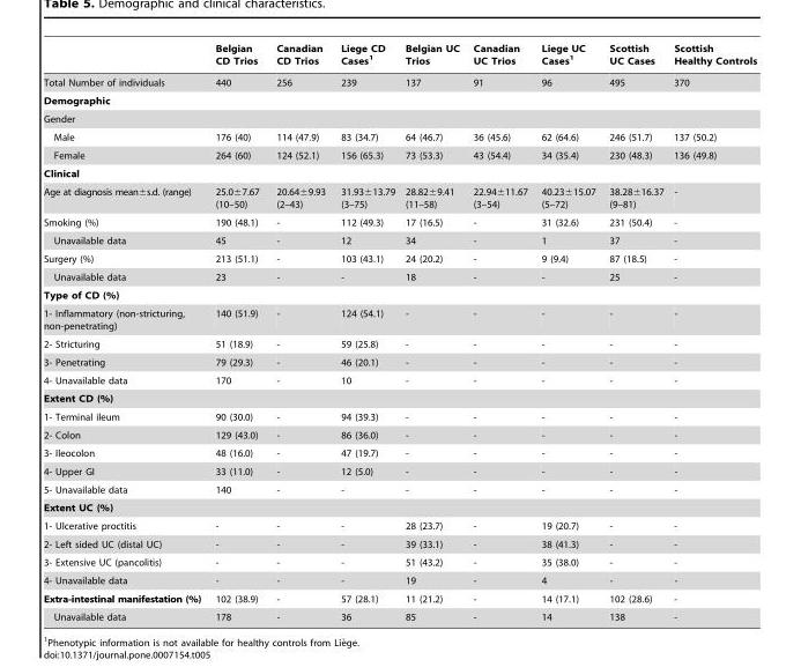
<table><thead><tr><td></td><td>Belgian CD Trios</td><td>Canadian CD Trios</td><td>Liege CD Cases<sup>1</sup></td><td>Belgian UC Trios</td><td>Canadian UC Trios</td><td>Liege UC Cases<sup>1</sup></td><td>Scottish UC Cases</td><td>Scottish Healthy Controls</td></tr></thead><tbody><tr><td>Total Number of individuals</td><td>440</td><td>256</td><td>239</td><td>137</td><td>91</td><td>96</td><td>495</td><td>370</td></tr><tr><td colspan="9">Demographic</td></tr><tr><td colspan="9">Gender</td></tr><tr><td>Male</td><td>176 (40)</td><td>114 (47.9)</td><td>83 (34.7)</td><td>64 (46.7)</td><td>36 (45.6)</td><td>62 (64.6)</td><td>246 (51.7)</td><td>137 (50.2)</td></tr><tr><td>Female</td><td>264 (60)</td><td>124 (52.1)</td><td>156 (65.3)</td><td>73 (53.3)</td><td>43 (54.4)</td><td>34 (35.4)</td><td>230 (48.3)</td><td>136 (49.8)</td></tr><tr><td colspan="9">Clinical</td></tr><tr><td>Age at diagnosis mean±s.d. (range)</td><td>25.0±7.67 (10–50)</td><td>20.64±9.93 (2–43)</td><td>31.93±13.79 (3–75)</td><td>28.82±9.41 (11–58)</td><td>22.94±11.67 (3–54)</td><td>40.23±15.07 (5–72)</td><td>38.28±16.37 (9–81)</td><td>-</td></tr><tr><td>Smoking (%)</td><td>190 (48.1)</td><td>-</td><td>112 (49.3)</td><td>17 (16.5)</td><td>-</td><td>31 (32.6)</td><td>231 (50.4)</td><td>-</td></tr><tr><td>Unavailable data</td><td>45</td><td>-</td><td>12</td><td>34</td><td>-</td><td>1</td><td>37</td><td>-</td></tr><tr><td>Surgery (%)</td><td>213 (51.1)</td><td>-</td><td>103 (43.1)</td><td>24 (20.2)</td><td>-</td><td>9 (9.4)</td><td>87 (18.5)</td><td>-</td></tr><tr><td>Unavailable data</td><td>23</td><td>-</td><td>-</td><td>18</td><td>-</td><td>-</td><td>25</td><td>-</td></tr><tr><td colspan="9">Type of CD (%)</td></tr><tr><td>1- Inflammatory (non-stricturing, non-penetrating)</td><td>140 (51.9)</td><td>-</td><td>124 (54.1)</td><td>-</td><td>-</td><td>-</td><td>-</td><td>-</td></tr><tr><td>2- Stricturing</td><td>51 (18.9)</td><td>-</td><td>59 (25.8)</td><td>-</td><td>-</td><td>-</td><td>-</td><td>-</td></tr><tr><td>3- Penetrating</td><td>79 (29.3)</td><td>-</td><td>46 (20.1)</td><td>-</td><td>-</td><td>-</td><td>-</td><td>-</td></tr><tr><td>4- Unavailable data</td><td>170</td><td>-</td><td>10</td><td>-</td><td>-</td><td>-</td><td>-</td><td>-</td></tr><tr><td colspan="9">Extent CD (%)</td></tr><tr><td>1- Terminal ileum</td><td>90 (30.0)</td><td>-</td><td>94 (39.3)</td><td>-</td><td>-</td><td>-</td><td>-</td><td>-</td></tr><tr><td>2- Colon</td><td>129 (43.0)</td><td>-</td><td>86 (36.0)</td><td>-</td><td>-</td><td>-</td><td>-</td><td>-</td></tr><tr><td>3- Ileocolon</td><td>48 (16.0)</td><td>-</td><td>47 (19.7)</td><td>-</td><td>-</td><td>-</td><td>-</td><td>-</td></tr><tr><td>4- Upper GI</td><td>33 (11.0)</td><td>-</td><td>12 (5.0)</td><td>-</td><td>-</td><td>-</td><td>-</td><td>-</td></tr><tr><td>5- Unavailable data</td><td>140</td><td>-</td><td>-</td><td>-</td><td>-</td><td>-</td><td>-</td><td>-</td></tr><tr><td colspan="9">Extent UC (%)</td></tr><tr><td>1- Ulcerative proctitis</td><td>-</td><td>-</td><td>-</td><td>28 (23.7)</td><td>-</td><td>19 (20.7)</td><td>-</td><td>-</td></tr><tr><td>2- Left sided UC (distal UC)</td><td>-</td><td>-</td><td>-</td><td>39 (33.1)</td><td>-</td><td>38 (41.3)</td><td>-</td><td>-</td></tr><tr><td>3- Extensive UC (pancolitis)</td><td>-</td><td>-</td><td>-</td><td>51 (43.2)</td><td>-</td><td>35 (38.0)</td><td>-</td><td>-</td></tr><tr><td>4- Unavailable data</td><td>-</td><td>-</td><td>-</td><td>19</td><td>-</td><td>4</td><td>-</td><td>-</td></tr><tr><td>Extra-intestinal manifestation (%)</td><td>102 (38.9)</td><td>-</td><td>57 (28.1)</td><td>11 (21.2)</td><td>-</td><td>14 (17.1)</td><td>102 (28.6)</td><td>-</td></tr><tr><td>Unavailable data</td><td>178</td><td>-</td><td>36</td><td>85</td><td>-</td><td>14</td><td>138</td><td>-</td></tr></tbody></table>